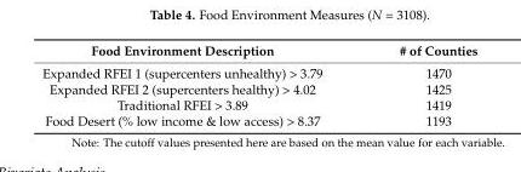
<table><thead><tr><td>Food Environment Description</td><td># of Counties</td></tr></thead><tbody><tr><td>Expanded RFEI 1 (supercenters unhealthy) &gt; 3.79</td><td>1470</td></tr><tr><td>Expanded RFEI 2 (supercenters healthy) &gt; 4.02</td><td>1425</td></tr><tr><td>Traditional RFEI &gt; 3.89</td><td>1419</td></tr><tr><td>Food Desert (% low income &amp; low access) &gt; 8.37</td><td>1193</td></tr></tbody></table>